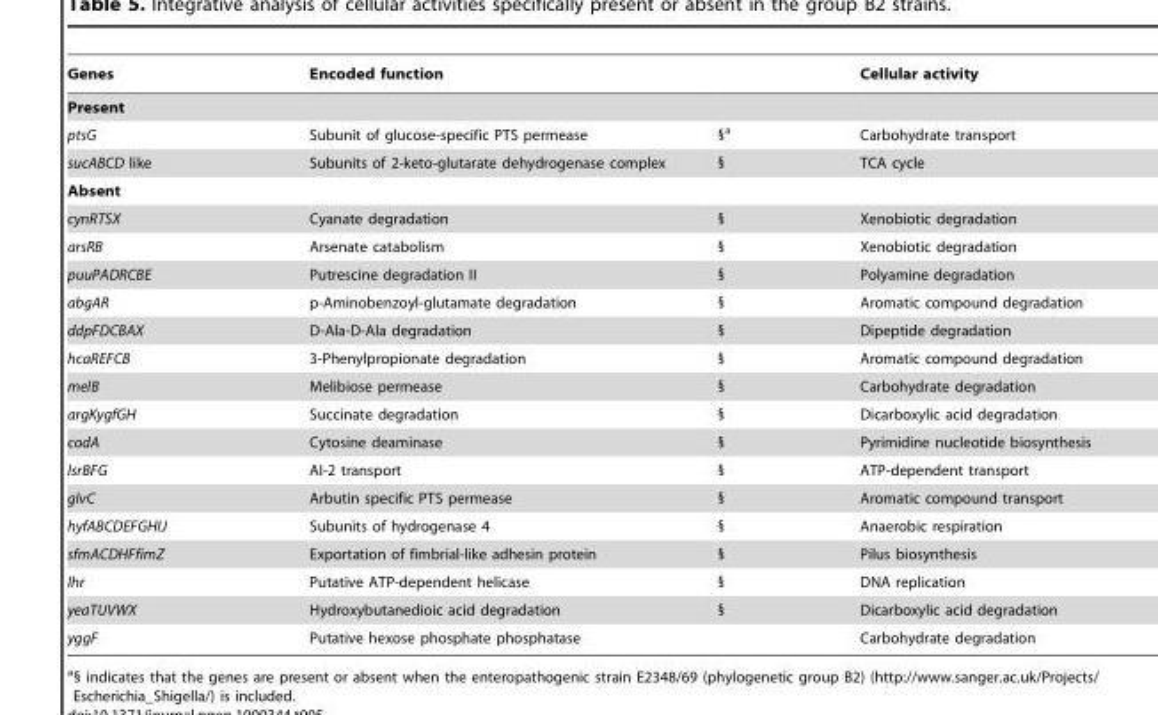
<table><thead><tr><td>Genes</td><td>Encoded function</td><td></td><td>Cellular activity</td></tr></thead><tbody><tr><td colspan="4">Present</td></tr><tr><td>ptsG</td><td>Subunit of glucose-specific PTS permease</td><td>§<sup>a</sup></td><td>Carbohydrate transport</td></tr><tr><td>sucABCD like</td><td>Subunits of 2-keto-glutarate dehydrogenase complex</td><td>§</td><td>TCA cycle</td></tr><tr><td colspan="4">Absent</td></tr><tr><td>cynRTSX</td><td>Cyanate degradation</td><td>§</td><td>Xenobiotic degradation</td></tr><tr><td>arsRB</td><td>Arsenate catabolism</td><td>§</td><td>Xenobiotic degradation</td></tr><tr><td>puuPADRCBE</td><td>Putrescine degradation II</td><td>§</td><td>Polyamine degradation</td></tr><tr><td>abgAR</td><td>p-Aminobenzoyl-glutamate degradation</td><td>§</td><td>Aromatic compound degradation</td></tr><tr><td>ddpFDCBAX</td><td>D-Ala-D-Ala degradation</td><td>§</td><td>Dipeptide degradation</td></tr><tr><td>hcaREFCB</td><td>3-Phenylpropionate degradation</td><td>§</td><td>Aromatic compound degradation</td></tr><tr><td>melB</td><td>Melibiose permease</td><td>§</td><td>Carbohydrate degradation</td></tr><tr><td>argKygfGH</td><td>Succinate degradation</td><td>§</td><td>Dicarboxylic acid degradation</td></tr><tr><td>codA</td><td>Cytosine deaminase</td><td>§</td><td>Pyrimidine nucleotide biosynthesis</td></tr><tr><td>lsrBFG</td><td>AI-2 transport</td><td>§</td><td>ATP-dependent transport</td></tr><tr><td>glvC</td><td>Arbutin specific PTS permease</td><td>§</td><td>Aromatic compound transport</td></tr><tr><td>hyfABCDEFGHIJ</td><td>Subunits of hydrogenase 4</td><td>§</td><td>Anaerobic respiration</td></tr><tr><td>sfmACDHFfimZ</td><td>Exportation of fimbrial-like adhesin protein</td><td>§</td><td>Pilus biosynthesis</td></tr><tr><td>lhr</td><td>Putative ATP-dependent helicase</td><td>§</td><td>DNA replication</td></tr><tr><td>yeaTUVWX</td><td>Hydroxybutanedioic acid degradation</td><td>§</td><td>Dicarboxylic acid degradation</td></tr><tr><td>yggF</td><td>Putative hexose phosphate phosphatase</td><td></td><td>Carbohydrate degradation</td></tr></tbody></table>